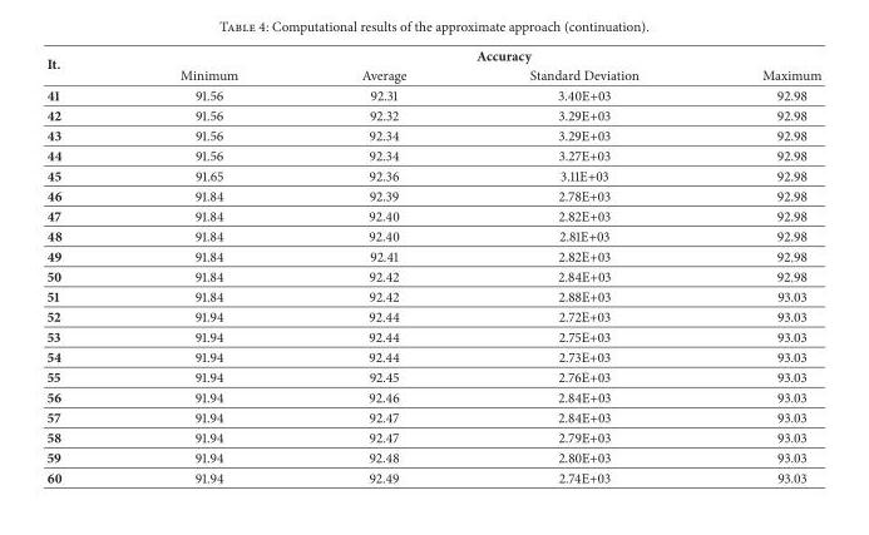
<table><thead><tr><td rowspan="2">It.</td><td colspan="4">Accuracy</td></tr><tr><td>Minimum</td><td>Average</td><td>Standard Deviation</td><td>Maximum</td></tr></thead><tbody><tr><td>41</td><td>91.56</td><td>92.31</td><td>3.40E+03</td><td>92.98</td></tr><tr><td>42</td><td>91.56</td><td>92.32</td><td>3.29E+03</td><td>92.98</td></tr><tr><td>43</td><td>91.56</td><td>92.34</td><td>3.29E+03</td><td>92.98</td></tr><tr><td>44</td><td>91.56</td><td>92.34</td><td>3.27E+03</td><td>92.98</td></tr><tr><td>45</td><td>91.65</td><td>92.36</td><td>3.11E+03</td><td>92.98</td></tr><tr><td>46</td><td>91.84</td><td>92.39</td><td>2.78E+03</td><td>92.98</td></tr><tr><td>47</td><td>91.84</td><td>92.40</td><td>2.82E+03</td><td>92.98</td></tr><tr><td>48</td><td>91.84</td><td>92.40</td><td>2.81E+03</td><td>92.98</td></tr><tr><td>49</td><td>91.84</td><td>92.41</td><td>2.82E+03</td><td>92.98</td></tr><tr><td>50</td><td>91.84</td><td>92.42</td><td>2.84E+03</td><td>92.98</td></tr><tr><td>51</td><td>91.84</td><td>92.42</td><td>2.88E+03</td><td>93.03</td></tr><tr><td>52</td><td>91.94</td><td>92.44</td><td>2.72E+03</td><td>93.03</td></tr><tr><td>53</td><td>91.94</td><td>92.44</td><td>2.75E+03</td><td>93.03</td></tr><tr><td>54</td><td>91.94</td><td>92.44</td><td>2.73E+03</td><td>93.03</td></tr><tr><td>55</td><td>91.94</td><td>92.45</td><td>2.76E+03</td><td>93.03</td></tr><tr><td>56</td><td>91.94</td><td>92.46</td><td>2.84E+03</td><td>93.03</td></tr><tr><td>57</td><td>91.94</td><td>92.47</td><td>2.84E+03</td><td>93.03</td></tr><tr><td>58</td><td>91.94</td><td>92.47</td><td>2.79E+03</td><td>93.03</td></tr><tr><td>59</td><td>91.94</td><td>92.48</td><td>2.80E+03</td><td>93.03</td></tr><tr><td>60</td><td>91.94</td><td>92.49</td><td>2.74E+03</td><td>93.03</td></tr></tbody></table>